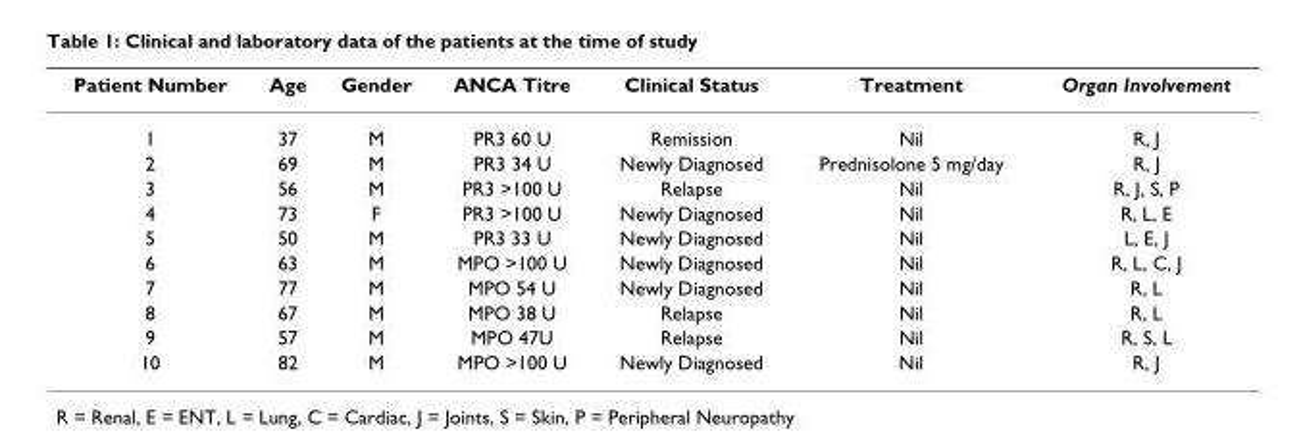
<table><thead><tr><td>Patient Number</td><td>Age</td><td>Gender</td><td>ANCA Titre</td><td>Clinical Status</td><td>Treatment</td><td>Organ Involvement</td></tr></thead><tbody><tr><td>1</td><td>37</td><td>M</td><td>PR3 60 U</td><td>Remission</td><td>Nil</td><td>R, J</td></tr><tr><td>2</td><td>69</td><td>M</td><td>PR3 34 U</td><td>Newly Diagnosed</td><td>Prednisolone 5 mg/day</td><td>R, J</td></tr><tr><td>3</td><td>56</td><td>M</td><td>PR3 &gt;100 U</td><td>Relapse</td><td>Nil</td><td>R, J, S, P</td></tr><tr><td>4</td><td>73</td><td>F</td><td>PR3 &gt;100 U</td><td>Newly Diagnosed</td><td>Nil</td><td>R, L, E</td></tr><tr><td>5</td><td>50</td><td>M</td><td>PR3 33 U</td><td>Newly Diagnosed</td><td>Nil</td><td>L, E, J</td></tr><tr><td>6</td><td>63</td><td>M</td><td>MPO &gt;100 U</td><td>Newly Diagnosed</td><td>Nil</td><td>R, L, C, J</td></tr><tr><td>7</td><td>77</td><td>M</td><td>MPO 54 U</td><td>Newly Diagnosed</td><td>Nil</td><td>R, L</td></tr><tr><td>8</td><td>67</td><td>M</td><td>MPO 38 U</td><td>Relapse</td><td>Nil</td><td>R, L</td></tr><tr><td>9</td><td>57</td><td>M</td><td>MPO 47U</td><td>Relapse</td><td>Nil</td><td>R, S, L</td></tr><tr><td>10</td><td>82</td><td>M</td><td>MPO &gt;100 U</td><td>Newly Diagnosed</td><td>Nil</td><td>R, J</td></tr></tbody></table>